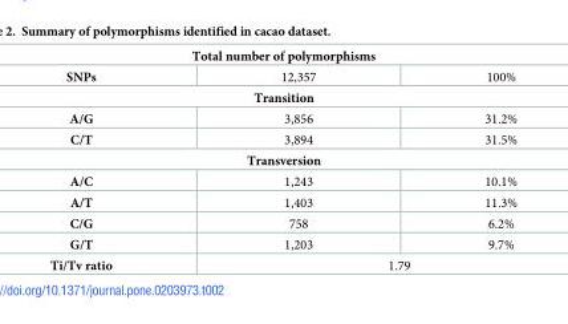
<table><thead><tr><td colspan="3">Total number of polymorphisms</td></tr><tr><td>SNPs</td><td>12,357</td><td>100%</td></tr></thead><tbody><tr><td colspan="3">Transition</td></tr><tr><td>A/G</td><td>3,856</td><td>31.2%</td></tr><tr><td>C/T</td><td>3,894</td><td>31.5%</td></tr><tr><td colspan="3">Transversion</td></tr><tr><td>A/C</td><td>1,243</td><td>10.1%</td></tr><tr><td>A/T</td><td>1,403</td><td>11.3%</td></tr><tr><td>C/G</td><td>758</td><td>6.2%</td></tr><tr><td>G/T</td><td>1,203</td><td>9.7%</td></tr><tr><td>Ti/Tv ratio</td><td colspan="2">1.79</td></tr></tbody></table>